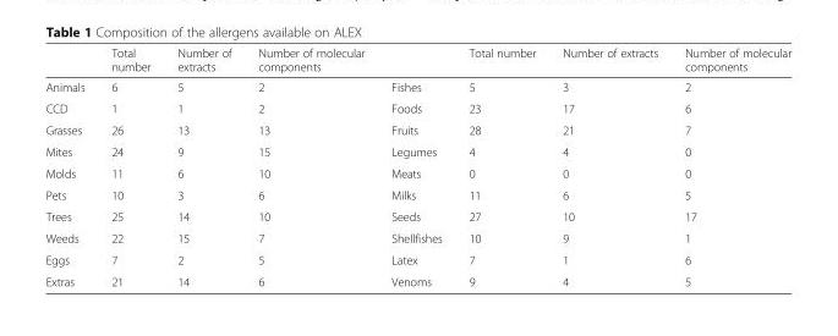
<table><thead><tr><td></td><td>Total number</td><td>Number of extracts</td><td>Number of molecular components</td><td></td><td>Total number</td><td>Number of extracts</td><td>Number of molecular components</td></tr></thead><tbody><tr><td>Animals</td><td>6</td><td>5</td><td>2</td><td>Fishes</td><td>5</td><td>3</td><td>2</td></tr><tr><td>CCD</td><td>1</td><td>1</td><td>2</td><td>Foods</td><td>23</td><td>17</td><td>6</td></tr><tr><td>Grasses</td><td>26</td><td>13</td><td>13</td><td>Fruits</td><td>28</td><td>21</td><td>7</td></tr><tr><td>Mites</td><td>24</td><td>9</td><td>15</td><td>Legumes</td><td>4</td><td>4</td><td>0</td></tr><tr><td>Molds</td><td>11</td><td>6</td><td>10</td><td>Meats</td><td>0</td><td>0</td><td>0</td></tr><tr><td>Pets</td><td>10</td><td>3</td><td>6</td><td>Milks</td><td>11</td><td>6</td><td>5</td></tr><tr><td>Trees</td><td>25</td><td>14</td><td>10</td><td>Seeds</td><td>27</td><td>10</td><td>17</td></tr><tr><td>Weeds</td><td>22</td><td>15</td><td>7</td><td>Shellfishes</td><td>10</td><td>9</td><td>1</td></tr><tr><td>Eggs</td><td>7</td><td>2</td><td>5</td><td>Latex</td><td>7</td><td>1</td><td>6</td></tr><tr><td>Extras</td><td>21</td><td>14</td><td>6</td><td>Venoms</td><td>9</td><td>4</td><td>5</td></tr></tbody></table>